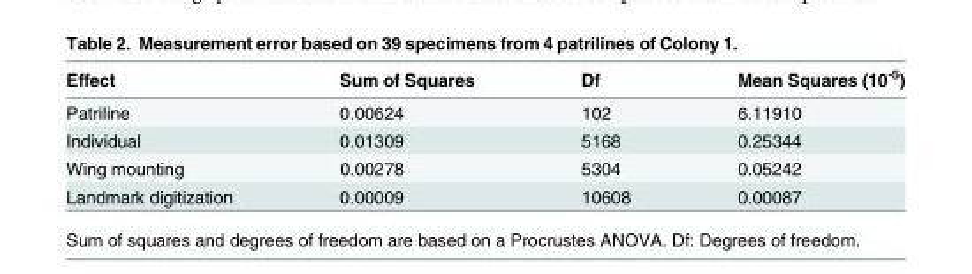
<table><thead><tr><td>Effect</td><td>Sum of Squares</td><td>Df</td><td>Mean Squares (10<sup>-5</sup>)</td></tr></thead><tbody><tr><td>Patriline</td><td>0.00624</td><td>102</td><td>6.11910</td></tr><tr><td>Individual</td><td>0.01309</td><td>5168</td><td>0.25344</td></tr><tr><td>Wing mounting</td><td>0.00278</td><td>5304</td><td>0.05242</td></tr><tr><td>Landmark digitization</td><td>0.00009</td><td>10608</td><td>0.00087</td></tr></tbody></table>